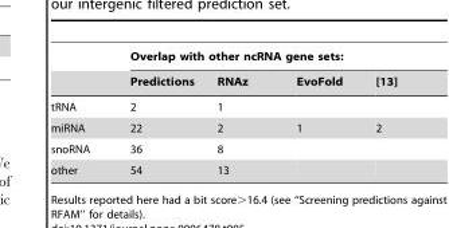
<table><thead><tr><td rowspan="2"></td><td colspan="4">Overlap with other ncRNA gene sets:</td></tr><tr><td>Predictions</td><td>RNAz</td><td>EvoFold</td><td>[13]</td></tr></thead><tbody><tr><td>tRNA</td><td>2</td><td>1</td><td></td><td></td></tr><tr><td>miRNA</td><td>22</td><td>2</td><td>1</td><td>2</td></tr><tr><td>snoRNA</td><td>36</td><td>8</td><td></td><td></td></tr><tr><td>other</td><td>54</td><td>13</td><td></td><td></td></tr></tbody></table>